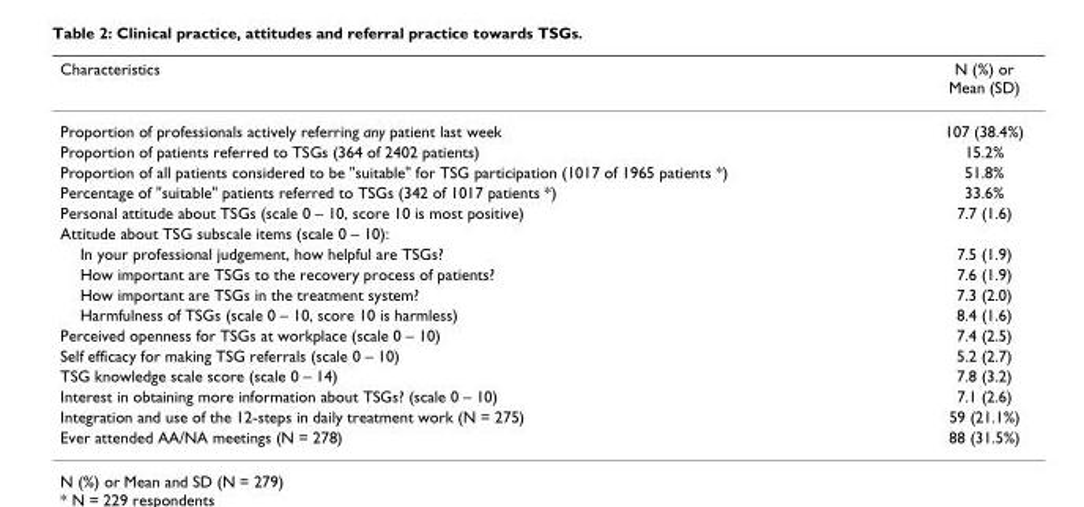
<table><thead><tr><td>Characteristics</td><td>N (%) or Mean (SD)</td></tr></thead><tbody><tr><td>Proportion of professionals actively referring any patient last week</td><td>107 (38.4%)</td></tr><tr><td>Proportion of patients referred to TSGs (364 of 2402 patients)</td><td>15.2%</td></tr><tr><td>Proportion of all patients considered to be &quot;suitable&quot; for TSG participation (1017 of 1965 patients *)</td><td>51.8%</td></tr><tr><td>Percentage of &quot;suitable&quot; patients referred to TSGs (342 of 1017 patients *)</td><td>33.6%</td></tr><tr><td>Personal attitude about TSGs (scale 0 – 10, score 10 is most positive)</td><td>7.7 (1.6)</td></tr><tr><td colspan="2">Attitude about TSG subscale items (scale 0 – 10):</td></tr><tr><td>In your professional judgement, how helpful are TSGs?</td><td>7.5 (1.9)</td></tr><tr><td>How important are TSGs to the recovery process of patients?</td><td>7.6 (1.9)</td></tr><tr><td>How important are TSGs in the treatment system?</td><td>7.3 (2.0)</td></tr><tr><td>Harmfulness of TSGs (scale 0 – 10, score 10 is harmless)</td><td>8.4 (1.6)</td></tr><tr><td>Perceived openness for TSGs at workplace (scale 0 – 10)</td><td>7.4 (2.5)</td></tr><tr><td>Self efficacy for making TSG referrals (scale 0 – 10)</td><td>5.2 (2.7)</td></tr><tr><td>TSG knowledge scale score (scale 0 – 14)</td><td>7.8 (3.2)</td></tr><tr><td>Interest in obtaining more information about TSGs? (scale 0 – 10)</td><td>7.1 (2.6)</td></tr><tr><td>Integration and use of the 12-steps in daily treatment work (N = 275)</td><td>59 (21.1%)</td></tr><tr><td>Ever attended AA/NA meetings (N = 278)</td><td>88 (31.5%)</td></tr></tbody></table>